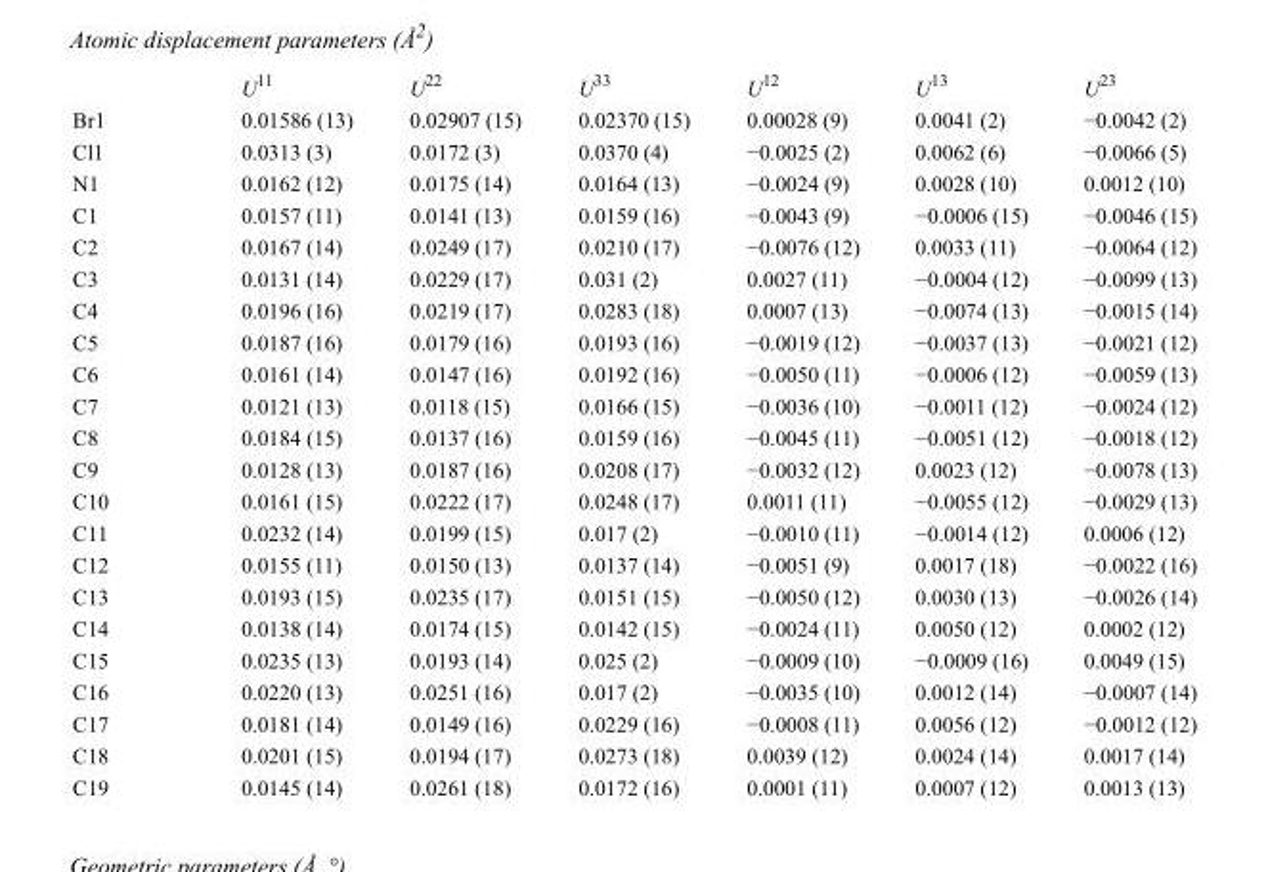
<table><thead><tr><td></td><td>U<sup>11</sup></td><td>U<sup>22</sup></td><td>U<sup>33</sup></td><td>U<sup>12</sup></td><td>U<sup>13</sup></td><td>U<sup>23</sup></td></tr></thead><tbody><tr><td>Br1</td><td>0.01586 (13)</td><td>0.02907 (15)</td><td>0.02370 (15)</td><td>0.00028 (9)</td><td>0.0041 (2)</td><td>−0.0042 (2)</td></tr><tr><td>Cl1</td><td>0.0313 (3)</td><td>0.0172 (3)</td><td>0.0370 (4)</td><td>−0.0025 (2)</td><td>0.0062 (6)</td><td>−0.0066 (5)</td></tr><tr><td>N1</td><td>0.0162 (12)</td><td>0.0175 (14)</td><td>0.0164 (13)</td><td>−0.0024 (9)</td><td>0.0028 (10)</td><td>0.0012 (10)</td></tr><tr><td>C1</td><td>0.0157 (11)</td><td>0.0141 (13)</td><td>0.0159 (16)</td><td>−0.0043 (9)</td><td>−0.0006 (15)</td><td>−0.0046 (15)</td></tr><tr><td>C2</td><td>0.0167 (14)</td><td>0.0249 (17)</td><td>0.0210 (17)</td><td>−0.0076 (12)</td><td>0.0033 (11)</td><td>−0.0064 (12)</td></tr><tr><td>C3</td><td>0.0131 (14)</td><td>0.0229 (17)</td><td>0.031 (2)</td><td>0.0027 (11)</td><td>−0.0004 (12)</td><td>−0.0099 (13)</td></tr><tr><td>C4</td><td>0.0196 (16)</td><td>0.0219 (17)</td><td>0.0283 (18)</td><td>0.0007 (13)</td><td>−0.0074 (13)</td><td>−0.0015 (14)</td></tr><tr><td>C5</td><td>0.0187 (16)</td><td>0.0179 (16)</td><td>0.0193 (16)</td><td>−0.0019 (12)</td><td>−0.0037 (13)</td><td>−0.0021 (12)</td></tr><tr><td>C6</td><td>0.0161 (14)</td><td>0.0147 (16)</td><td>0.0192 (16)</td><td>−0.0050 (11)</td><td>−0.0006 (12)</td><td>−0.0059 (13)</td></tr><tr><td>C7</td><td>0.0121 (13)</td><td>0.0118 (15)</td><td>0.0166 (15)</td><td>−0.0036 (10)</td><td>−0.0011 (12)</td><td>−0.0024 (12)</td></tr><tr><td>C8</td><td>0.0184 (15)</td><td>0.0137 (16)</td><td>0.0159 (16)</td><td>−0.0045 (11)</td><td>−0.0051 (12)</td><td>−0.0018 (12)</td></tr><tr><td>C9</td><td>0.0128 (13)</td><td>0.0187 (16)</td><td>0.0208 (17)</td><td>−0.0032 (12)</td><td>0.0023 (12)</td><td>−0.0078 (13)</td></tr><tr><td>C10</td><td>0.0161 (15)</td><td>0.0222 (17)</td><td>0.0248 (17)</td><td>0.0011 (11)</td><td>−0.0055 (12)</td><td>−0.0029 (13)</td></tr><tr><td>C11</td><td>0.0232 (14)</td><td>0.0199 (15)</td><td>0.017 (2)</td><td>−0.0010 (11)</td><td>−0.0014 (12)</td><td>0.0006 (12)</td></tr><tr><td>C12</td><td>0.0155 (11)</td><td>0.0150 (13)</td><td>0.0137 (14)</td><td>−0.0051 (9)</td><td>0.0017 (18)</td><td>−0.0022 (16)</td></tr><tr><td>C13</td><td>0.0193 (15)</td><td>0.0235 (17)</td><td>0.0151 (15)</td><td>−0.0050 (12)</td><td>0.0030 (13)</td><td>−0.0026 (14)</td></tr><tr><td>C14</td><td>0.0138 (14)</td><td>0.0174 (15)</td><td>0.0142 (15)</td><td>−0.0024 (11)</td><td>0.0050 (12)</td><td>0.0002 (12)</td></tr><tr><td>C15</td><td>0.0235 (13)</td><td>0.0193 (14)</td><td>0.025 (2)</td><td>−0.0009 (10)</td><td>−0.0009 (16)</td><td>0.0049 (15)</td></tr><tr><td>C16</td><td>0.0220 (13)</td><td>0.0251 (16)</td><td>0.017 (2)</td><td>−0.0035 (10)</td><td>0.0012 (14)</td><td>−0.0007 (14)</td></tr><tr><td>C17</td><td>0.0181 (14)</td><td>0.0149 (16)</td><td>0.0229 (16)</td><td>−0.0008 (11)</td><td>0.0056 (12)</td><td>−0.0012 (12)</td></tr><tr><td>C18</td><td>0.0201 (15)</td><td>0.0194 (17)</td><td>0.0273 (18)</td><td>0.0039 (12)</td><td>0.0024 (14)</td><td>0.0017 (14)</td></tr><tr><td>C19</td><td>0.0145 (14)</td><td>0.0261 (18)</td><td>0.0172 (16)</td><td>0.0001 (11)</td><td>0.0007 (12)</td><td>0.0013 (13)</td></tr></tbody></table>